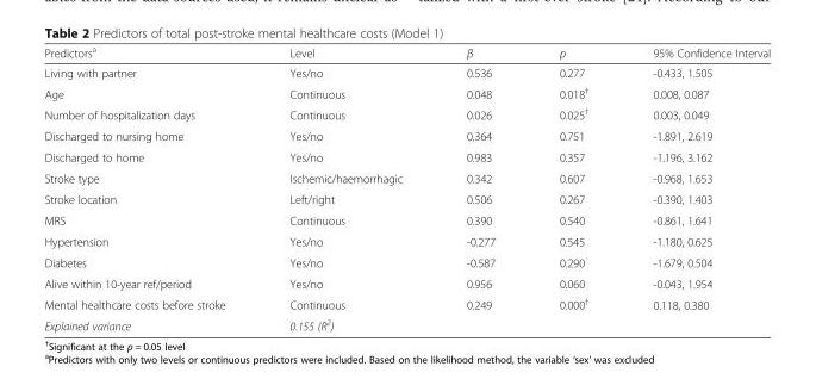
<table><thead><tr><td>Predictors<sup>a</sup></td><td>Level</td><td>β</td><td>p</td><td>95% Confidence Interval</td></tr></thead><tbody><tr><td>Living with partner</td><td>Yes/no</td><td>0.536</td><td>0.277</td><td>-0.433, 1.505</td></tr><tr><td>Age</td><td>Continuous</td><td>0.048</td><td>0.018<sup>†</sup></td><td>0.008, 0.087</td></tr><tr><td>Number of hospitalization days</td><td>Continuous</td><td>0.026</td><td>0.025<sup>†</sup></td><td>0.003, 0.049</td></tr><tr><td>Discharged to nursing home</td><td>Yes/no</td><td>0.364</td><td>0.751</td><td>-1.891, 2.619</td></tr><tr><td>Discharged to home</td><td>Yes/no</td><td>0.983</td><td>0.357</td><td>-1.196, 3.162</td></tr><tr><td>Stroke type</td><td>Ischemic/haemorrhagic</td><td>0.342</td><td>0.607</td><td>-0.968, 1.653</td></tr><tr><td>Stroke location</td><td>Left/right</td><td>0.506</td><td>0.267</td><td>-0.390, 1.403</td></tr><tr><td>MRS</td><td>Continuous</td><td>0.390</td><td>0.540</td><td>-0.861, 1.641</td></tr><tr><td>Hypertension</td><td>Yes/no</td><td>-0.277</td><td>0.545</td><td>-1.180, 0.625</td></tr><tr><td>Diabetes</td><td>Yes/no</td><td>-0.587</td><td>0.290</td><td>-1.679, 0.504</td></tr><tr><td>Alive within 10-year ref/period</td><td>Yes/no</td><td>0.956</td><td>0.060</td><td>-0.043, 1.954</td></tr><tr><td>Mental healthcare costs before stroke</td><td>Continuous</td><td>0.249</td><td>0.000<sup>†</sup></td><td>0.118, 0.380</td></tr><tr><td>Explained variance</td><td>0.155 (R<sup>2</sup>)</td><td></td><td></td><td></td></tr></tbody></table>